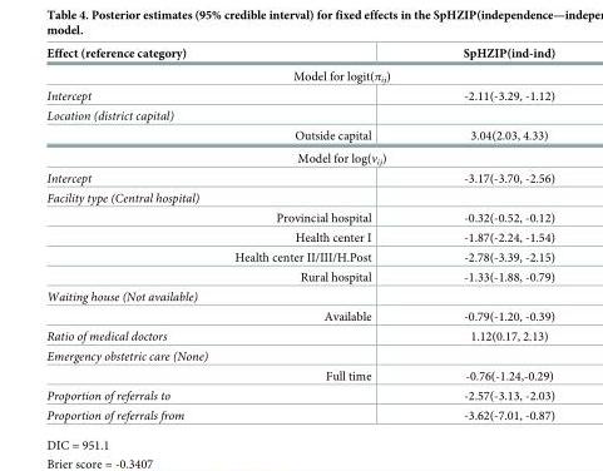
<table><thead><tr><td>Effect (reference category)</td><td>SpHZIP(ind-ind)</td></tr></thead><tbody><tr><td colspan="2">Model for logit(π<sub>ij</sub>)</td></tr><tr><td>Intercept</td><td>-2.11(-3.29, -1.12)</td></tr><tr><td colspan="2">Location (district capital)</td></tr><tr><td>Outside capital</td><td>3.04(2.03, 4.33)</td></tr><tr><td colspan="2">Model for log(ν<sub>ij</sub>)</td></tr><tr><td>Intercept</td><td>-3.17(-3.70, -2.56)</td></tr><tr><td colspan="2">Facility type (Central hospital)</td></tr><tr><td>Provincial hospital</td><td>-0.32(-0.52, -0.12)</td></tr><tr><td>Health center I</td><td>-1.87(-2.24, -1.54)</td></tr><tr><td>Health center II/III/H.Post</td><td>-2.78(-3.39, -2.15)</td></tr><tr><td>Rural hospital</td><td>-1.33(-1.88, -0.79)</td></tr><tr><td colspan="2">Waiting house (Not available)</td></tr><tr><td>Available</td><td>-0.79(-1.20, -0.39)</td></tr><tr><td>Ratio of medical doctors</td><td>1.12(0.17, 2.13)</td></tr><tr><td colspan="2">Emergency obstetric care (None)</td></tr><tr><td>Full time</td><td>-0.76(-1.24,-0.29)</td></tr><tr><td>Proportion of referrals to</td><td>-2.57(-3.13, -2.03)</td></tr><tr><td>Proportion of referrals from</td><td>-3.62(-7.01, -0.87)</td></tr></tbody></table>